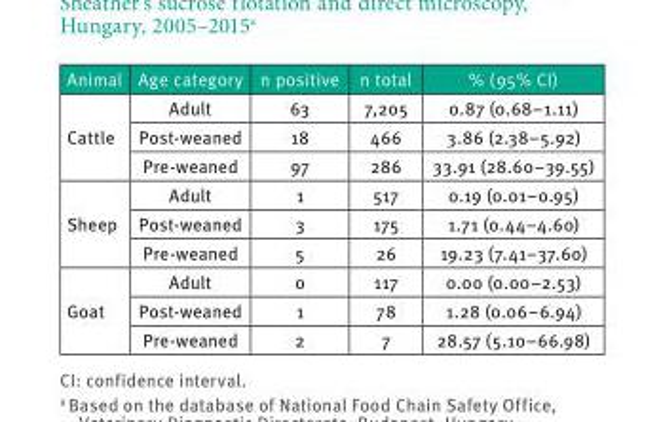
<table><thead><tr><td>Animal</td><td>Age category</td><td>n positive</td><td>n total</td><td>% (95% CI)</td></tr></thead><tbody><tr><td rowspan="3">Cattle</td><td>Adult</td><td>63</td><td>7,205</td><td>0.87 (0.68–1.11)</td></tr><tr><td>Post-weaned</td><td>18</td><td>466</td><td>3.86 (2.38–5.92)</td></tr><tr><td>Pre-weaned</td><td>97</td><td>286</td><td>33.91 (28.60–39.55)</td></tr><tr><td rowspan="3">Sheep</td><td>Adult</td><td>1</td><td>517</td><td>0.19 (0.01–0.95)</td></tr><tr><td>Post-weaned</td><td>3</td><td>175</td><td>1.71 (0.44–4.60)</td></tr><tr><td>Pre-weaned</td><td>5</td><td>26</td><td>19.23 (7.41–37.60)</td></tr><tr><td rowspan="3">Goat</td><td>Adult</td><td>0</td><td>117</td><td>0.00 (0.00–2.53)</td></tr><tr><td>Post-weaned</td><td>1</td><td>78</td><td>1.28 (0.06–6.94)</td></tr><tr><td>Pre-weaned</td><td>2</td><td>7</td><td>28.57 (5.10–66.98)</td></tr></tbody></table>